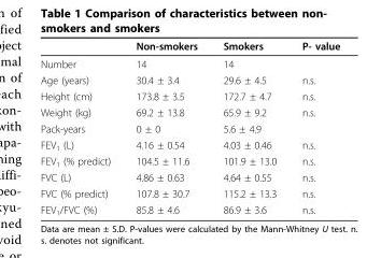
<table><thead><tr><td></td><td>Non-smokers</td><td>Smokers</td><td>P- value</td></tr></thead><tbody><tr><td>Number</td><td>14</td><td>14</td><td></td></tr><tr><td>Age (years)</td><td>30.4 ± 3.4</td><td>29.6 ± 4.5</td><td>n.s.</td></tr><tr><td>Height (cm)</td><td>173.8 ± 3.5</td><td>172.7 ± 4.7</td><td>n.s.</td></tr><tr><td>Weight (kg)</td><td>69.2 ± 13.8</td><td>65.9 ± 9.2</td><td>n.s.</td></tr><tr><td>Pack-years</td><td>0 ± 0</td><td>5.6 ± 4.9</td><td></td></tr><tr><td>FEV<sub>1</sub> (L)</td><td>4.16 ± 0.54</td><td>4.03 ± 0.46</td><td>n.s.</td></tr><tr><td>FEV<sub>1</sub> (% predict)</td><td>104.5 ± 11.6</td><td>101.9 ± 13.0</td><td>n.s.</td></tr><tr><td>FVC (L)</td><td>4.86 ± 0.63</td><td>4.64 ± 0.55</td><td>n.s.</td></tr><tr><td>FVC (% predict)</td><td>107.8 ± 30.7</td><td>115.2 ± 13.3</td><td>n.s.</td></tr><tr><td>FEV<sub>1</sub>/FVC (%)</td><td>85.8 ± 4.6</td><td>86.9 ± 3.6</td><td>n.s.</td></tr></tbody></table>